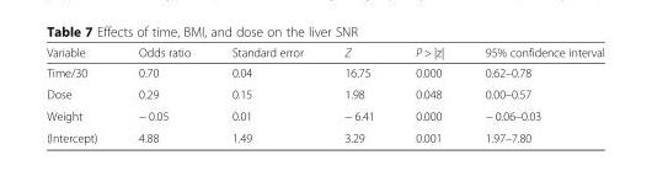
<table><thead><tr><td>Variable</td><td>Odds ratio</td><td>Standard error</td><td>Z</td><td>P &gt; |z|</td><td>95% confidence interval</td></tr></thead><tbody><tr><td>Time/30</td><td>0.70</td><td>0.04</td><td>16.75</td><td>0.000</td><td>0.62–0.78</td></tr><tr><td>Dose</td><td>0.29</td><td>0.15</td><td>1.98</td><td>0.048</td><td>0.00–0.57</td></tr><tr><td>Weight</td><td>− 0.05</td><td>0.01</td><td>− 6.41</td><td>0.000</td><td>− 0.06–0.03</td></tr><tr><td>(Intercept)</td><td>4.88</td><td>1.49</td><td>3.29</td><td>0.001</td><td>1.97–7.80</td></tr></tbody></table>